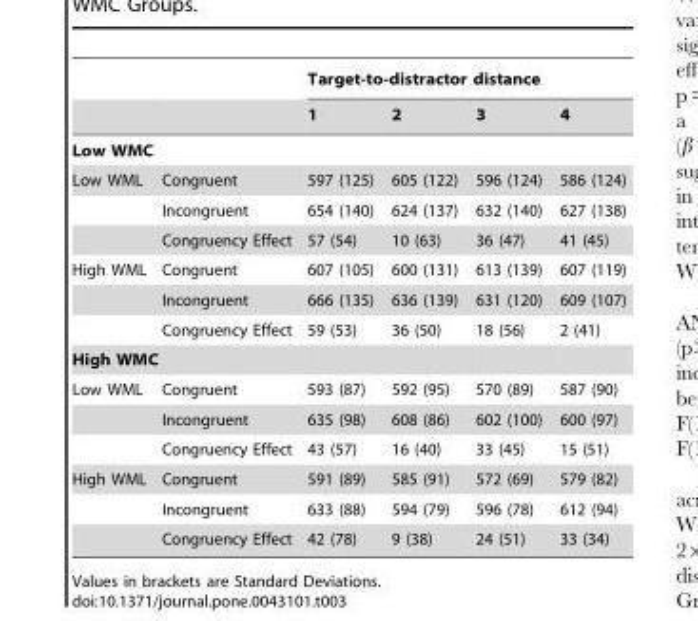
<table><thead><tr><td rowspan="2"></td><td rowspan="2"></td><td colspan="4">Target-to-distractor distance</td></tr><tr><td>1</td><td>2</td><td>3</td><td>4</td></tr></thead><tbody><tr><td colspan="6">Low WMC</td></tr><tr><td rowspan="3">Low WML</td><td>Congruent</td><td>597 (125)</td><td>605 (122)</td><td>596 (124)</td><td>586 (124)</td></tr><tr><td>Incongruent</td><td>654 (140)</td><td>624 (137)</td><td>632 (140)</td><td>627 (138)</td></tr><tr><td>Congruency Effect</td><td>57 (54)</td><td>10 (63)</td><td>36 (47)</td><td>41 (45)</td></tr><tr><td rowspan="3">High WML</td><td>Congruent</td><td>607 (105)</td><td>600 (131)</td><td>613 (139)</td><td>607 (119)</td></tr><tr><td>Incongruent</td><td>666 (135)</td><td>636 (139)</td><td>631 (120)</td><td>609 (107)</td></tr><tr><td>Congruency Effect</td><td>59 (53)</td><td>36 (50)</td><td>18 (56)</td><td>2 (41)</td></tr><tr><td colspan="6">High WMC</td></tr><tr><td rowspan="3">Low WML</td><td>Congruent</td><td>593 (87)</td><td>592 (95)</td><td>570 (89)</td><td>587 (90)</td></tr><tr><td>Incongruent</td><td>635 (98)</td><td>608 (86)</td><td>602 (100)</td><td>600 (97)</td></tr><tr><td>Congruency Effect</td><td>43 (57)</td><td>16 (40)</td><td>33 (45)</td><td>15 (51)</td></tr><tr><td rowspan="3">High WML</td><td>Congruent</td><td>591 (89)</td><td>585 (91)</td><td>572 (69)</td><td>579 (82)</td></tr><tr><td>Incongruent</td><td>633 (88)</td><td>594 (79)</td><td>596 (78)</td><td>612 (94)</td></tr><tr><td>Congruency Effect</td><td>42 (78)</td><td>9 (38)</td><td>24 (51)</td><td>33 (34)</td></tr></tbody></table>